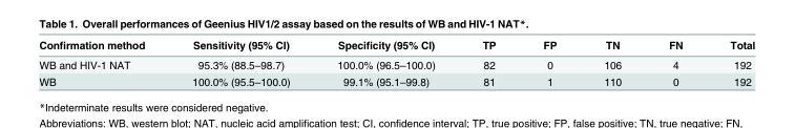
<table><thead><tr><td>Confirmation method</td><td>Sensitivity (95% CI)</td><td>Specificity (95% CI)</td><td>TP</td><td>FP</td><td>TN</td><td>FN</td><td>Total</td></tr></thead><tbody><tr><td>WB and HIV-1 NAT</td><td>95.3% (88.5–98.7)</td><td>100.0% (96.5–100.0)</td><td>82</td><td>0</td><td>106</td><td>4</td><td>192</td></tr><tr><td>WB</td><td>100.0% (95.5–100.0)</td><td>99.1% (95.1–99.8)</td><td>81</td><td>1</td><td>110</td><td>0</td><td>192</td></tr></tbody></table>